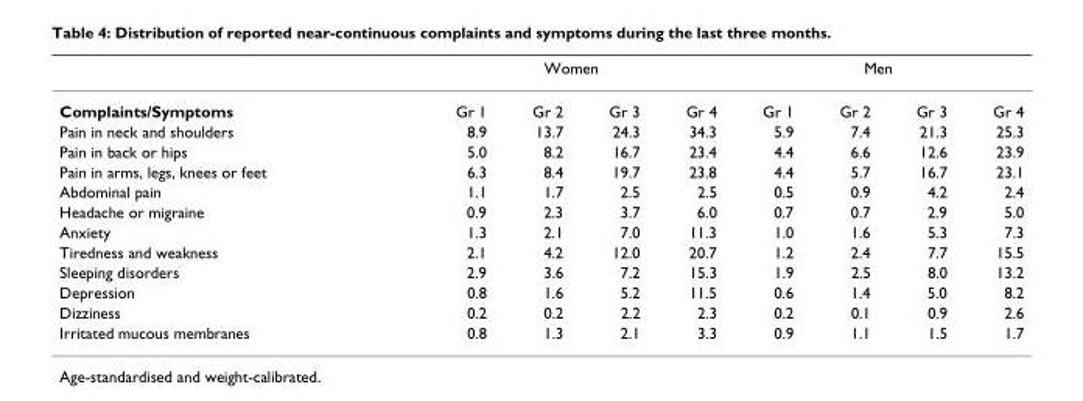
<table><thead><tr><td rowspan="2">Complaints/Symptoms</td><td colspan="4">Women</td><td colspan="4">Men</td></tr><tr><td>Gr 1</td><td>Gr 2</td><td>Gr 3</td><td>Gr 4</td><td>Gr 1</td><td>Gr 2</td><td>Gr 3</td><td>Gr 4</td></tr></thead><tbody><tr><td>Pain in neck and shoulders</td><td>8.9</td><td>13.7</td><td>24.3</td><td>34.3</td><td>5.9</td><td>7.4</td><td>21.3</td><td>25.3</td></tr><tr><td>Pain in back or hips</td><td>5.0</td><td>8.2</td><td>16.7</td><td>23.4</td><td>4.4</td><td>6.6</td><td>12.6</td><td>23.9</td></tr><tr><td>Pain in arms, legs, knees or feet</td><td>6.3</td><td>8.4</td><td>19.7</td><td>23.8</td><td>4.4</td><td>5.7</td><td>16.7</td><td>23.1</td></tr><tr><td>Abdominal pain</td><td>1.1</td><td>1.7</td><td>2.5</td><td>2.5</td><td>0.5</td><td>0.9</td><td>4.2</td><td>2.4</td></tr><tr><td>Headache or migraine</td><td>0.9</td><td>2.3</td><td>3.7</td><td>6.0</td><td>0.7</td><td>0.7</td><td>2.9</td><td>5.0</td></tr><tr><td>Anxiety</td><td>1.3</td><td>2.1</td><td>7.0</td><td>11.3</td><td>1.0</td><td>1.6</td><td>5.3</td><td>7.3</td></tr><tr><td>Tiredness and weakness</td><td>2.1</td><td>4.2</td><td>12.0</td><td>20.7</td><td>1.2</td><td>2.4</td><td>7.7</td><td>15.5</td></tr><tr><td>Sleeping disorders</td><td>2.9</td><td>3.6</td><td>7.2</td><td>15.3</td><td>1.9</td><td>2.5</td><td>8.0</td><td>13.2</td></tr><tr><td>Depression</td><td>0.8</td><td>1.6</td><td>5.2</td><td>11.5</td><td>0.6</td><td>1.4</td><td>5.0</td><td>8.2</td></tr><tr><td>Dizziness</td><td>0.2</td><td>0.2</td><td>2.2</td><td>2.3</td><td>0.2</td><td>0.1</td><td>0.9</td><td>2.6</td></tr><tr><td>Irritated mucous membranes</td><td>0.8</td><td>1.3</td><td>2.1</td><td>3.3</td><td>0.9</td><td>1.1</td><td>1.5</td><td>1.7</td></tr></tbody></table>